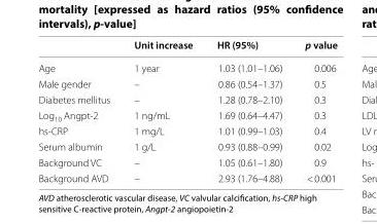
<table><thead><tr><td></td><td>Unit increase</td><td>HR (95%)</td><td>p value</td></tr></thead><tbody><tr><td>Age</td><td>1 year</td><td>1.03 (1.01–1.06)</td><td>0.006</td></tr><tr><td>Male gender</td><td>–</td><td>0.86 (0.54–1.37)</td><td>0.5</td></tr><tr><td>Diabetes mellitus</td><td>–</td><td>1.28 (0.78–2.10)</td><td>0.3</td></tr><tr><td>Log<sub>10</sub> Angpt-2</td><td>1 ng/mL</td><td>1.69 (0.64–4.47)</td><td>0.3</td></tr><tr><td>hs-CRP</td><td>1 mg/L</td><td>1.01 (0.99–1.03)</td><td>0.4</td></tr><tr><td>Serum albumin</td><td>1 g/L</td><td>0.93 (0.88–0.99)</td><td>0.02</td></tr><tr><td>Background VC</td><td>–</td><td>1.05 (0.61–1.80)</td><td>0.9</td></tr><tr><td>Background AVD</td><td>–</td><td>2.93 (1.76–4.88)</td><td>&lt; 0.001</td></tr></tbody></table>